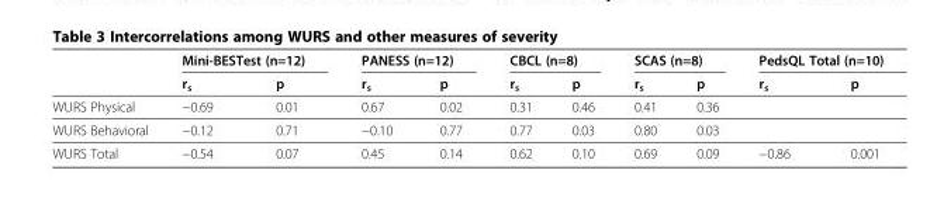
<table><thead><tr><td rowspan="2"></td><td colspan="2">Mini-BESTest (n=12)</td><td colspan="2">PANESS (n=12)</td><td colspan="2">CBCL (n=8)</td><td colspan="2">SCAS (n=8)</td><td colspan="2">PedsQL Total (n=10)</td></tr><tr><td>r<sub>s</sub></td><td>p</td><td>r<sub>s</sub></td><td>p</td><td>r<sub>s</sub></td><td>p</td><td>r<sub>s</sub></td><td>p</td><td>r<sub>s</sub></td><td>p</td></tr></thead><tbody><tr><td>WURS Physical</td><td>−0.69</td><td>0.01</td><td>0.67</td><td>0.02</td><td>0.31</td><td>0.46</td><td>0.41</td><td>0.36</td><td></td><td></td></tr><tr><td>WURS Behavioral</td><td>−0.12</td><td>0.71</td><td>−0.10</td><td>0.77</td><td>0.77</td><td>0.03</td><td>0.80</td><td>0.03</td><td></td><td></td></tr><tr><td>WURS Total</td><td>−0.54</td><td>0.07</td><td>0.45</td><td>0.14</td><td>0.62</td><td>0.10</td><td>0.69</td><td>0.09</td><td>−0.86</td><td>0.001</td></tr></tbody></table>